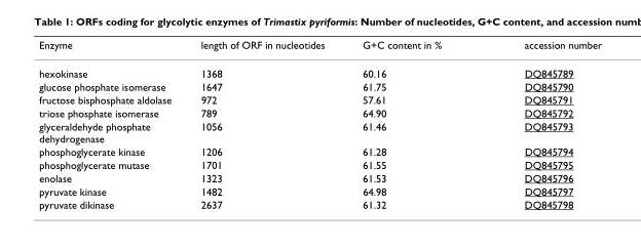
<table><thead><tr><td>Enzyme</td><td>length of ORF in nucleotides</td><td>G+C content in %</td><td>accession number</td></tr></thead><tbody><tr><td>hexokinase</td><td>1368</td><td>60.16</td><td>DQ845789</td></tr><tr><td>glucose phosphate isomerase</td><td>1647</td><td>61.75</td><td>DQ845790</td></tr><tr><td>fructose bisphosphate aldolase</td><td>972</td><td>57.61</td><td>DQ845791</td></tr><tr><td>triose phosphate isomerase</td><td>789</td><td>64.90</td><td>DQ845792</td></tr><tr><td>glyceraldehyde phosphate dehydrogenase</td><td>1056</td><td>61.46</td><td>DQ845793</td></tr><tr><td>phosphoglycerate kinase</td><td>1206</td><td>61.28</td><td>DQ845794</td></tr><tr><td>phosphoglycerate mutase</td><td>1701</td><td>61.55</td><td>DQ845795</td></tr><tr><td>enolase</td><td>1323</td><td>61.53</td><td>DQ845796</td></tr><tr><td>pyruvate kinase</td><td>1482</td><td>64.98</td><td>DQ845797</td></tr><tr><td>pyruvate dikinase</td><td>2637</td><td>61.32</td><td>DQ845798</td></tr></tbody></table>